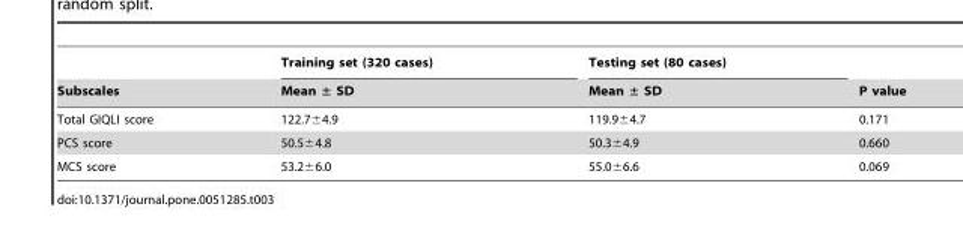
<table><thead><tr><td rowspan="2">Subscales</td><td rowspan="2">Training set (320 cases) Mean ± SD</td><td rowspan="2">Testing set (80 cases) Mean ± SD</td><td rowspan="2">P value</td></tr><tr></tr></thead><tbody><tr><td>Total GIQLI score</td><td>122.7±4.9</td><td>119.9±4.7</td><td>0.171</td></tr><tr><td>PCS score</td><td>50.5±4.8</td><td>50.3±4.9</td><td>0.660</td></tr><tr><td>MCS score</td><td>53.2±6.0</td><td>55.0±6.6</td><td>0.069</td></tr></tbody></table>